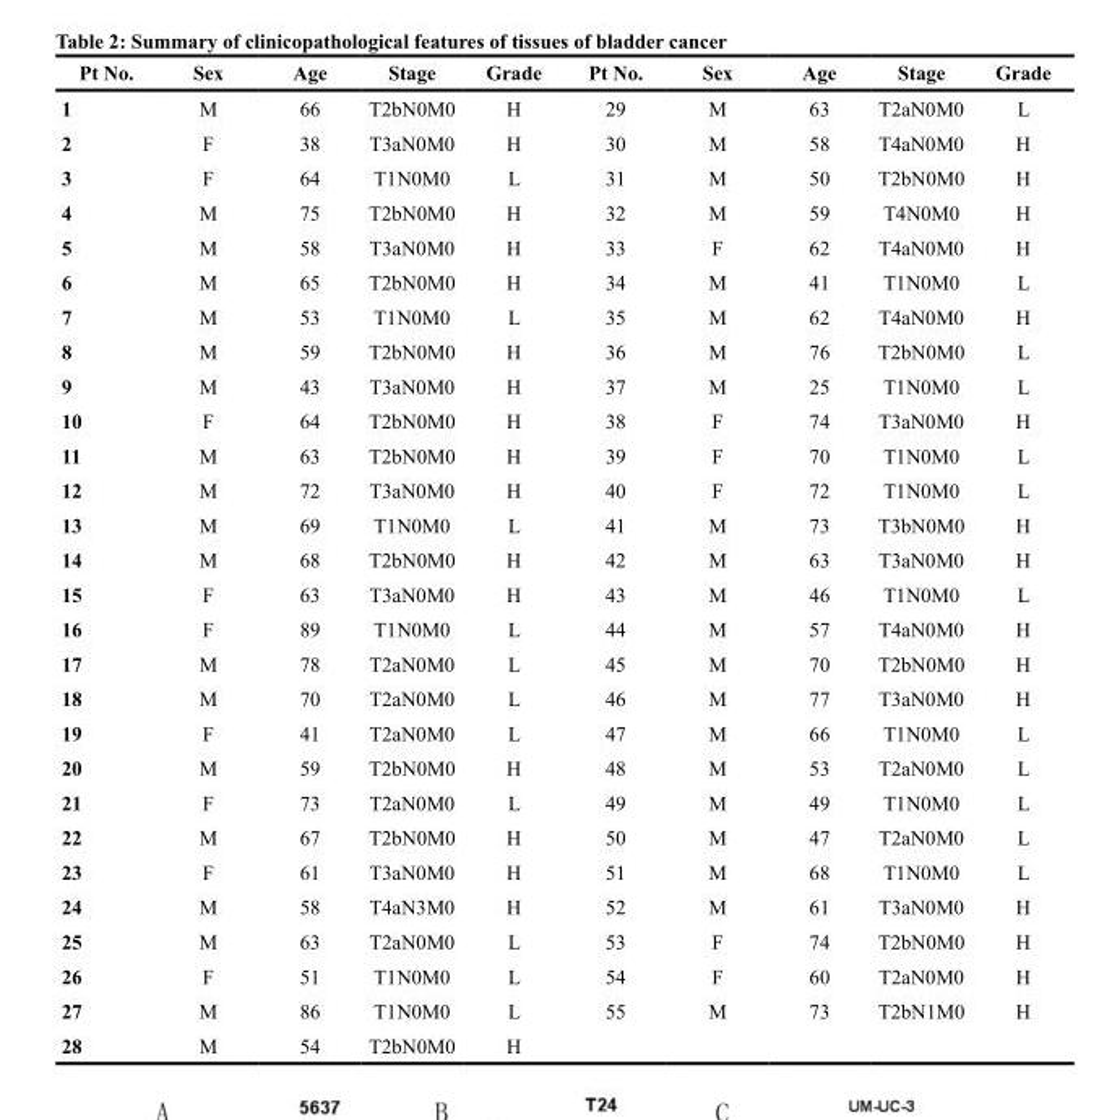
<table><thead><tr><td>Pt No.</td><td>Sex</td><td>Age</td><td>Stage</td><td>Grade</td><td>Pt No.</td><td>Sex</td><td>Age</td><td>Stage</td><td>Grade</td></tr></thead><tbody><tr><td>1</td><td>M</td><td>66</td><td>T2bN0M0</td><td>H</td><td>29</td><td>M</td><td>63</td><td>T2aN0M0</td><td>L</td></tr><tr><td>2</td><td>F</td><td>38</td><td>T3aN0M0</td><td>H</td><td>30</td><td>M</td><td>58</td><td>T4aN0M0</td><td>H</td></tr><tr><td>3</td><td>F</td><td>64</td><td>T1N0M0</td><td>L</td><td>31</td><td>M</td><td>50</td><td>T2bN0M0</td><td>H</td></tr><tr><td>4</td><td>M</td><td>75</td><td>T2bN0M0</td><td>H</td><td>32</td><td>M</td><td>59</td><td>T4N0M0</td><td>H</td></tr><tr><td>5</td><td>M</td><td>58</td><td>T3aN0M0</td><td>H</td><td>33</td><td>F</td><td>62</td><td>T4aN0M0</td><td>H</td></tr><tr><td>6</td><td>M</td><td>65</td><td>T2bN0M0</td><td>H</td><td>34</td><td>M</td><td>41</td><td>T1N0M0</td><td>L</td></tr><tr><td>7</td><td>M</td><td>53</td><td>T1N0M0</td><td>L</td><td>35</td><td>M</td><td>62</td><td>T4aN0M0</td><td>H</td></tr><tr><td>8</td><td>M</td><td>59</td><td>T2bN0M0</td><td>H</td><td>36</td><td>M</td><td>76</td><td>T2bN0M0</td><td>L</td></tr><tr><td>9</td><td>M</td><td>43</td><td>T3aN0M0</td><td>H</td><td>37</td><td>M</td><td>25</td><td>T1N0M0</td><td>L</td></tr><tr><td>10</td><td>F</td><td>64</td><td>T2bN0M0</td><td>H</td><td>38</td><td>F</td><td>74</td><td>T3aN0M0</td><td>H</td></tr><tr><td>11</td><td>M</td><td>63</td><td>T2bN0M0</td><td>H</td><td>39</td><td>F</td><td>70</td><td>T1N0M0</td><td>L</td></tr><tr><td>12</td><td>M</td><td>72</td><td>T3aN0M0</td><td>H</td><td>40</td><td>F</td><td>72</td><td>T1N0M0</td><td>L</td></tr><tr><td>13</td><td>M</td><td>69</td><td>T1N0M0</td><td>L</td><td>41</td><td>M</td><td>73</td><td>T3bN0M0</td><td>H</td></tr><tr><td>14</td><td>M</td><td>68</td><td>T2bN0M0</td><td>H</td><td>42</td><td>M</td><td>63</td><td>T3aN0M0</td><td>H</td></tr><tr><td>15</td><td>F</td><td>63</td><td>T3aN0M0</td><td>H</td><td>43</td><td>M</td><td>46</td><td>T1N0M0</td><td>L</td></tr><tr><td>16</td><td>F</td><td>89</td><td>T1N0M0</td><td>L</td><td>44</td><td>M</td><td>57</td><td>T4aN0M0</td><td>H</td></tr><tr><td>17</td><td>M</td><td>78</td><td>T2aN0M0</td><td>L</td><td>45</td><td>M</td><td>70</td><td>T2bN0M0</td><td>H</td></tr><tr><td>18</td><td>M</td><td>70</td><td>T2aN0M0</td><td>L</td><td>46</td><td>M</td><td>77</td><td>T3aN0M0</td><td>H</td></tr><tr><td>19</td><td>F</td><td>41</td><td>T2aN0M0</td><td>L</td><td>47</td><td>M</td><td>66</td><td>T1N0M0</td><td>L</td></tr><tr><td>20</td><td>M</td><td>59</td><td>T2bN0M0</td><td>H</td><td>48</td><td>M</td><td>53</td><td>T2aN0M0</td><td>L</td></tr><tr><td>21</td><td>F</td><td>73</td><td>T2aN0M0</td><td>L</td><td>49</td><td>M</td><td>49</td><td>T1N0M0</td><td>L</td></tr><tr><td>22</td><td>M</td><td>67</td><td>T2bN0M0</td><td>H</td><td>50</td><td>M</td><td>47</td><td>T2aN0M0</td><td>L</td></tr><tr><td>23</td><td>F</td><td>61</td><td>T3aN0M0</td><td>H</td><td>51</td><td>M</td><td>68</td><td>T1N0M0</td><td>L</td></tr><tr><td>24</td><td>M</td><td>58</td><td>T4aN3M0</td><td>H</td><td>52</td><td>M</td><td>61</td><td>T3aN0M0</td><td>H</td></tr><tr><td>25</td><td>M</td><td>63</td><td>T2aN0M0</td><td>L</td><td>53</td><td>F</td><td>74</td><td>T2bN0M0</td><td>H</td></tr><tr><td>26</td><td>F</td><td>51</td><td>T1N0M0</td><td>L</td><td>54</td><td>F</td><td>60</td><td>T2aN0M0</td><td>H</td></tr><tr><td>27</td><td>M</td><td>86</td><td>T1N0M0</td><td>L</td><td>55</td><td>M</td><td>73</td><td>T2bN1M0</td><td>H</td></tr><tr><td>28</td><td>M</td><td>54</td><td>T2bN0M0</td><td>H</td><td></td><td></td><td></td><td></td><td></td></tr></tbody></table>